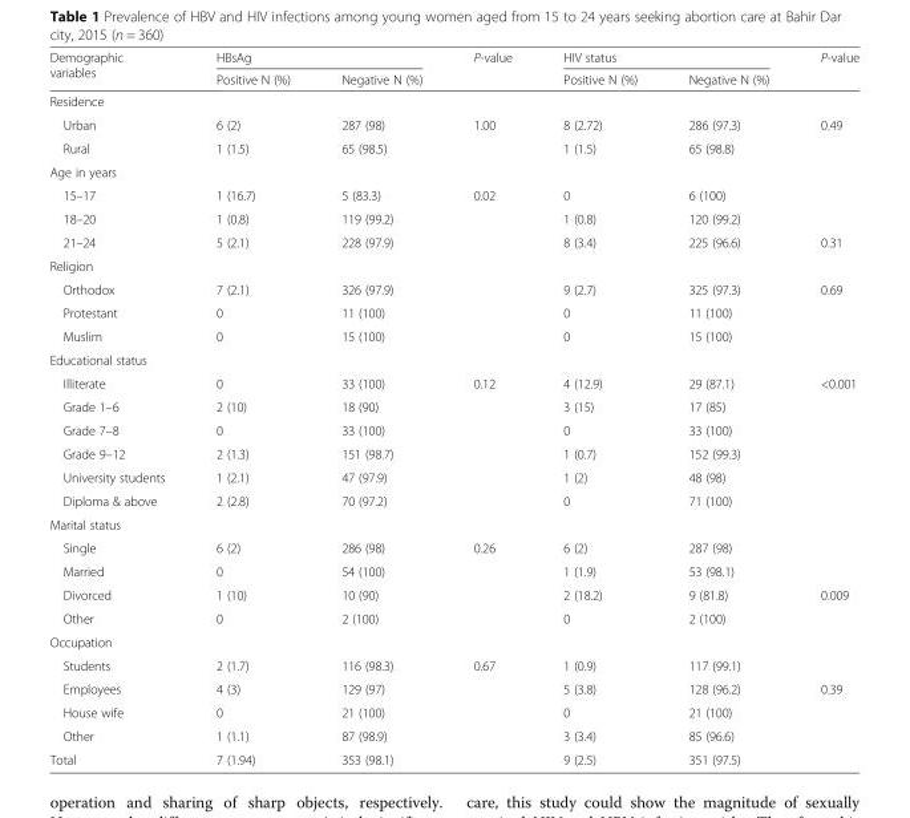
<table><thead><tr><td rowspan="2">Demographic variables</td><td colspan="2">HBsAg</td><td rowspan="2">P-value</td><td colspan="2">HIV status</td><td rowspan="2">P-value</td></tr><tr><td>Positive N (%)</td><td>Negative N (%)</td><td>Positive N (%)</td><td>Negative N (%)</td></tr></thead><tbody><tr><td colspan="7">Residence</td></tr><tr><td>Urban</td><td>6 (2)</td><td>287 (98)</td><td>1.00</td><td>8 (2.72)</td><td>286 (97.3)</td><td>0.49</td></tr><tr><td>Rural</td><td>1 (1.5)</td><td>65 (98.5)</td><td></td><td>1 (1.5)</td><td>65 (98.8)</td><td></td></tr><tr><td colspan="7">Age in years</td></tr><tr><td>15–17</td><td>1 (16.7)</td><td>5 (83.3)</td><td>0.02</td><td>0</td><td>6 (100)</td><td></td></tr><tr><td>18–20</td><td>1 (0.8)</td><td>119 (99.2)</td><td></td><td>1 (0.8)</td><td>120 (99.2)</td><td></td></tr><tr><td>21–24</td><td>5 (2.1)</td><td>228 (97.9)</td><td></td><td>8 (3.4)</td><td>225 (96.6)</td><td>0.31</td></tr><tr><td colspan="7">Religion</td></tr><tr><td>Orthodox</td><td>7 (2.1)</td><td>326 (97.9)</td><td></td><td>9 (2.7)</td><td>325 (97.3)</td><td>0.69</td></tr><tr><td>Protestant</td><td>0</td><td>11 (100)</td><td></td><td>0</td><td>11 (100)</td><td></td></tr><tr><td>Muslim</td><td>0</td><td>15 (100)</td><td></td><td>0</td><td>15 (100)</td><td></td></tr><tr><td colspan="7">Educational status</td></tr><tr><td>Illiterate</td><td>0</td><td>33 (100)</td><td>0.12</td><td>4 (12.9)</td><td>29 (87.1)</td><td>&lt;0.001</td></tr><tr><td>Grade 1–6</td><td>2 (10)</td><td>18 (90)</td><td></td><td>3 (15)</td><td>17 (85)</td><td></td></tr><tr><td>Grade 7–8</td><td>0</td><td>33 (100)</td><td></td><td>0</td><td>33 (100)</td><td></td></tr><tr><td>Grade 9–12</td><td>2 (1.3)</td><td>151 (98.7)</td><td></td><td>1 (0.7)</td><td>152 (99.3)</td><td></td></tr><tr><td>University students</td><td>1 (2.1)</td><td>47 (97.9)</td><td></td><td>1 (2)</td><td>48 (98)</td><td></td></tr><tr><td>Diploma &amp; above</td><td>2 (2.8)</td><td>70 (97.2)</td><td></td><td>0</td><td>71 (100)</td><td></td></tr><tr><td colspan="7">Marital status</td></tr><tr><td>Single</td><td>6 (2)</td><td>286 (98)</td><td>0.26</td><td>6 (2)</td><td>287 (98)</td><td></td></tr><tr><td>Married</td><td>0</td><td>54 (100)</td><td></td><td>1 (1.9)</td><td>53 (98.1)</td><td></td></tr><tr><td>Divorced</td><td>1 (10)</td><td>10 (90)</td><td></td><td>2 (18.2)</td><td>9 (81.8)</td><td>0.009</td></tr><tr><td>Other</td><td>0</td><td>2 (100)</td><td></td><td>0</td><td>2 (100)</td><td></td></tr><tr><td colspan="7">Occupation</td></tr><tr><td>Students</td><td>2 (1.7)</td><td>116 (98.3)</td><td>0.67</td><td>1 (0.9)</td><td>117 (99.1)</td><td></td></tr><tr><td>Employees</td><td>4 (3)</td><td>129 (97)</td><td></td><td>5 (3.8)</td><td>128 (96.2)</td><td>0.39</td></tr><tr><td>House wife</td><td>0</td><td>21 (100)</td><td></td><td>0</td><td>21 (100)</td><td></td></tr><tr><td>Other</td><td>1 (1.1)</td><td>87 (98.9)</td><td></td><td>3 (3.4)</td><td>85 (96.6)</td><td></td></tr><tr><td>Total</td><td>7 (1.94)</td><td>353 (98.1)</td><td></td><td>9 (2.5)</td><td>351 (97.5)</td><td></td></tr></tbody></table>